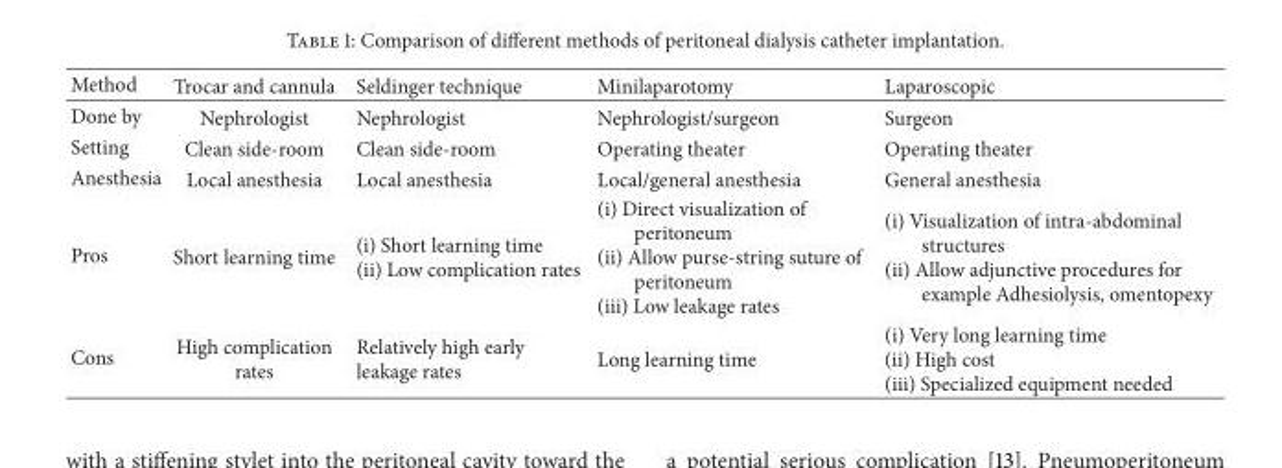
<table><thead><tr><td>Method</td><td>Trocar and cannula</td><td>Seldinger technique</td><td>Minilaparotomy</td><td>Laparoscopic</td></tr></thead><tbody><tr><td>Done by</td><td>Nephrologist</td><td>Nephrologist</td><td>Nephrologist/surgeon</td><td>Surgeon</td></tr><tr><td>Setting</td><td>Clean side-room</td><td>Clean side-room</td><td>Operating theater</td><td>Operating theater</td></tr><tr><td>Anesthesia</td><td>Local anesthesia</td><td>Local anesthesia</td><td>Local/general anesthesia</td><td>General anesthesia</td></tr><tr><td>Pros</td><td>Short learning time</td><td>(i) Short learning time (ii) Low complication rates</td><td>(i) Direct visualization of peritoneum (ii) Allow purse-string suture of peritoneum (iii) Low leakage rates</td><td>(i) Visualization of intra-abdominal structures (ii) Allow adjunctive procedures for example Adhesiolysis, omentopexy</td></tr><tr><td>Cons</td><td>High complication rates</td><td>Relatively high early leakage rates</td><td>Long learning time</td><td>(i) Very long learning time (ii) High cost (iii) Specialized equipment needed</td></tr></tbody></table>